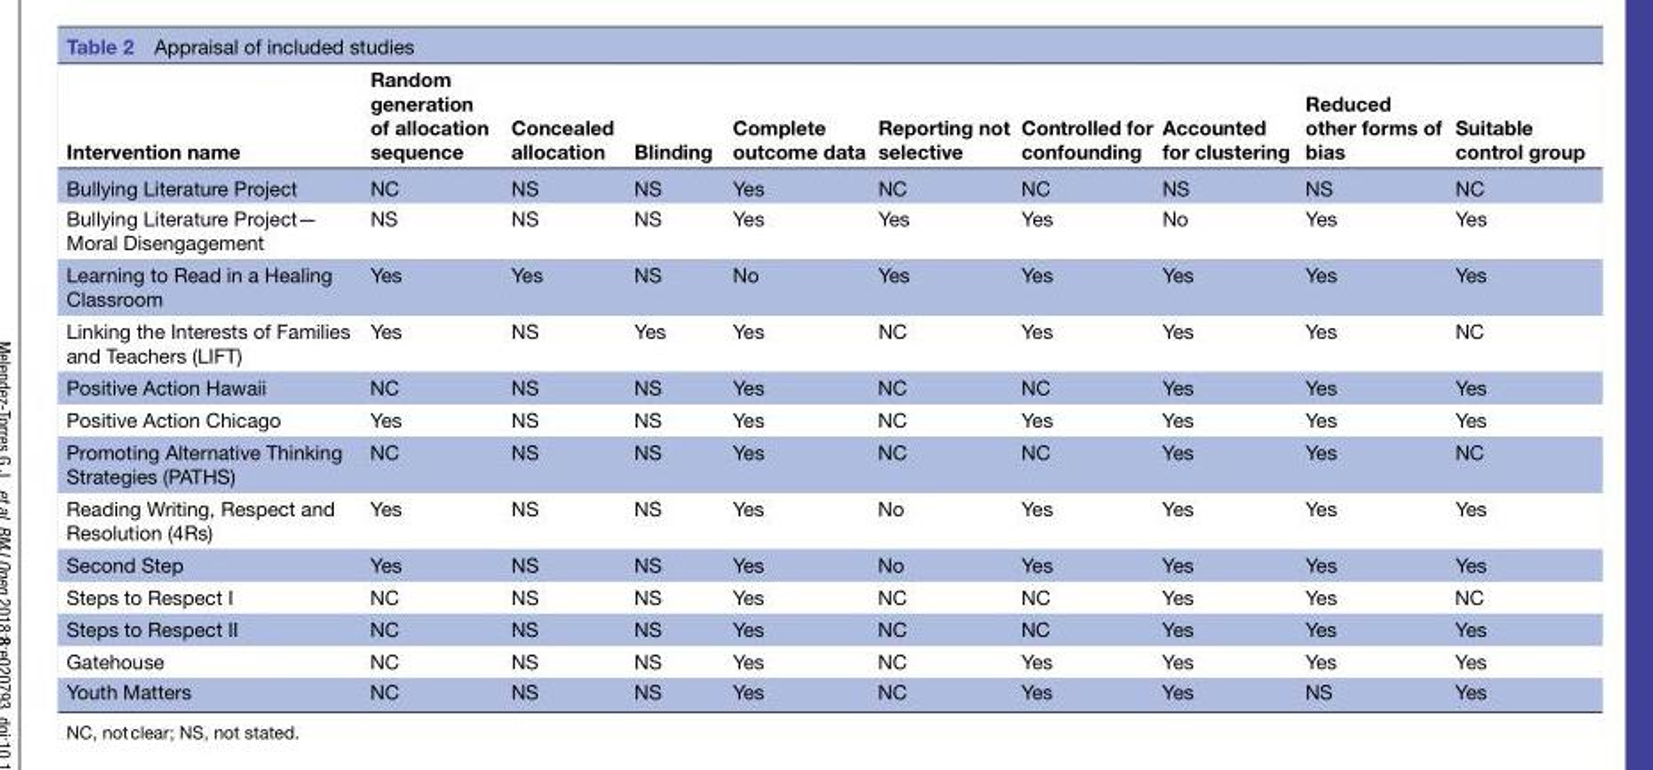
<table><thead><tr><td>Intervention name</td><td>Random generation of allocation sequence</td><td>Concealed allocation</td><td>Blinding</td><td>Complete outcome data</td><td>Reporting not selective</td><td>Controlled for confounding</td><td>Accounted for clustering</td><td>Reduced other forms of bias</td><td>Suitable control group</td></tr></thead><tbody><tr><td>Bullying Literature Project</td><td>NC</td><td>NS</td><td>NS</td><td>Yes</td><td>NC</td><td>NC</td><td>NS</td><td>NS</td><td>NC</td></tr><tr><td>Bullying Literature Project— Moral Disengagement</td><td>NS</td><td>NS</td><td>NS</td><td>Yes</td><td>Yes</td><td>Yes</td><td>No</td><td>Yes</td><td>Yes</td></tr><tr><td>Learning to Read in a Healing Classroom</td><td>Yes</td><td>Yes</td><td>NS</td><td>No</td><td>Yes</td><td>Yes</td><td>Yes</td><td>Yes</td><td>Yes</td></tr><tr><td>Linking the Interests of Families and Teachers (LIFT)</td><td>Yes</td><td>NS</td><td>Yes</td><td>Yes</td><td>NC</td><td>Yes</td><td>Yes</td><td>Yes</td><td>NC</td></tr><tr><td>Positive Action Hawaii</td><td>NC</td><td>NS</td><td>NS</td><td>Yes</td><td>NC</td><td>NC</td><td>Yes</td><td>Yes</td><td>Yes</td></tr><tr><td>Positive Action Chicago</td><td>Yes</td><td>NS</td><td>NS</td><td>Yes</td><td>NC</td><td>Yes</td><td>Yes</td><td>Yes</td><td>Yes</td></tr><tr><td>Promoting Alternative Thinking Strategies (PATHS)</td><td>NC</td><td>NS</td><td>NS</td><td>Yes</td><td>NC</td><td>NC</td><td>Yes</td><td>Yes</td><td>NC</td></tr><tr><td>Reading Writing, Respect and Resolution (4Rs)</td><td>Yes</td><td>NS</td><td>NS</td><td>Yes</td><td>No</td><td>Yes</td><td>Yes</td><td>Yes</td><td>Yes</td></tr><tr><td>Second Step</td><td>Yes</td><td>NS</td><td>NS</td><td>Yes</td><td>No</td><td>Yes</td><td>Yes</td><td>Yes</td><td>Yes</td></tr><tr><td>Steps to Respect I</td><td>NC</td><td>NS</td><td>NS</td><td>Yes</td><td>NC</td><td>NC</td><td>Yes</td><td>Yes</td><td>NC</td></tr><tr><td>Steps to Respect II</td><td>NC</td><td>NS</td><td>NS</td><td>Yes</td><td>NC</td><td>NC</td><td>Yes</td><td>Yes</td><td>Yes</td></tr><tr><td>Gatehouse</td><td>NC</td><td>NS</td><td>NS</td><td>Yes</td><td>NC</td><td>Yes</td><td>Yes</td><td>Yes</td><td>Yes</td></tr><tr><td>Youth Matters</td><td>NC</td><td>NS</td><td>NS</td><td>Yes</td><td>NC</td><td>Yes</td><td>Yes</td><td>NS</td><td>Yes</td></tr></tbody></table>